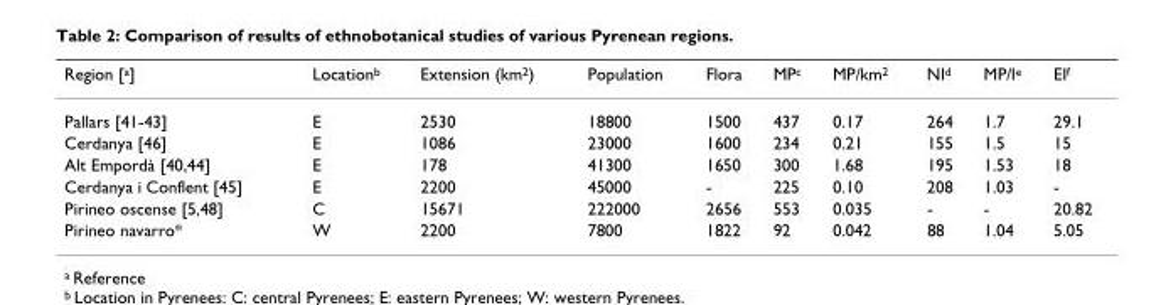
<table><thead><tr><td>Region [<sup>a</sup>]</td><td>Location<sup>b</sup></td><td>Extension (km<sup>2</sup>)</td><td>Population</td><td>Flora</td><td>MP<sup>c</sup></td><td>MP/km<sup>2</sup></td><td>NI<sup>d</sup></td><td>MP/I<sup>e</sup></td><td>EI<sup>f</sup></td></tr></thead><tbody><tr><td>Pallars [41-43]</td><td>E</td><td>2530</td><td>18800</td><td>1500</td><td>437</td><td>0.17</td><td>264</td><td>1.7</td><td>29.1</td></tr><tr><td>Cerdanya [46]</td><td>E</td><td>1086</td><td>23000</td><td>1600</td><td>234</td><td>0.21</td><td>155</td><td>1.5</td><td>15</td></tr><tr><td>Alt Empordà [40,44]</td><td>E</td><td>178</td><td>41300</td><td>1650</td><td>300</td><td>1.68</td><td>195</td><td>1.53</td><td>18</td></tr><tr><td>Cerdanya i Conflent [45]</td><td>E</td><td>2200</td><td>45000</td><td>-</td><td>225</td><td>0.10</td><td>208</td><td>1.03</td><td>-</td></tr><tr><td>Pirineo oscense [5,48]</td><td>C</td><td>15671</td><td>222000</td><td>2656</td><td>553</td><td>0.035</td><td>-</td><td>-</td><td>20.82</td></tr><tr><td>Pirineo navarro*</td><td>W</td><td>2200</td><td>7800</td><td>1822</td><td>92</td><td>0.042</td><td>88</td><td>1.04</td><td>5.05</td></tr></tbody></table>